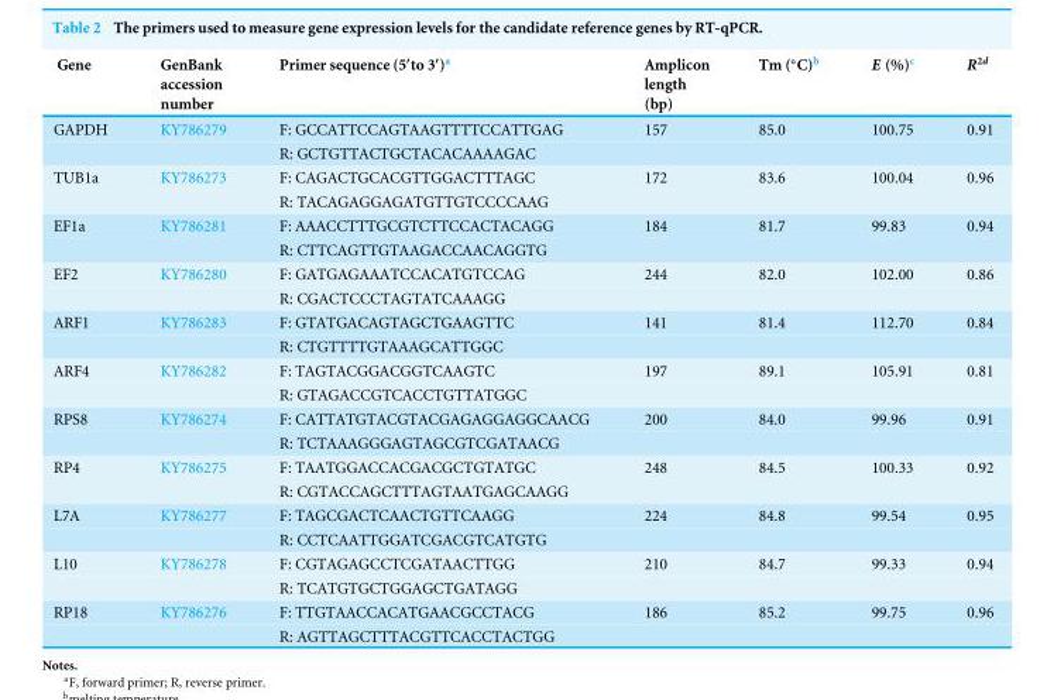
<table><thead><tr><td>Gene</td><td>GenBank accession number</td><td>Primer sequence (5′to 3′)<sup>a</sup></td><td>Amplicon length (bp)</td><td>Tm (◦C)b</td><td>E (%)<sup>c</sup></td><td>R<sup>2d</sup></td></tr></thead><tbody><tr><td rowspan="2">GAPDH</td><td>KY786279</td><td>F: GCCATTCCAGTAAGTTTTCCATTGAG</td><td>157</td><td>85.0</td><td>100.75</td><td>0.91</td></tr><tr><td></td><td>R: GCTGTTACTGCTACACAAAAGAC</td><td></td><td></td><td></td><td></td></tr><tr><td rowspan="2">TUB1a</td><td>KY786273</td><td>F: CAGACTGCACGTTGGACTTTAGC</td><td>172</td><td>83.6</td><td>100.04</td><td>0.96</td></tr><tr><td></td><td>R: TACAGAGGAGATGTTGTCCCCAAG</td><td></td><td></td><td></td><td></td></tr><tr><td rowspan="2">EF1a</td><td>KY786281</td><td>F: AAACCTTTGCGTCTTCCACTACAGG</td><td>184</td><td>81.7</td><td>99.83</td><td>0.94</td></tr><tr><td></td><td>R: CTTCAGTTGTAAGACCAACAGGTG</td><td></td><td></td><td></td><td></td></tr><tr><td rowspan="2">EF2</td><td>KY786280</td><td>F: GATGAGAAATCCACATGTCCAG</td><td>244</td><td>82.0</td><td>102.00</td><td>0.86</td></tr><tr><td></td><td>R: CGACTCCCTAGTATCAAAGG</td><td></td><td></td><td></td><td></td></tr><tr><td rowspan="2">ARF1</td><td>KY786283</td><td>F: GTATGACAGTAGCTGAAGTTC</td><td>141</td><td>81.4</td><td>112.70</td><td>0.84</td></tr><tr><td></td><td>R: CTGTTTTGTAAAGCATTGGC</td><td></td><td></td><td></td><td></td></tr><tr><td rowspan="2">ARF4</td><td>KY786282</td><td>F: TAGTACGGACGGTCAAGTC</td><td>197</td><td>89.1</td><td>105.91</td><td>0.81</td></tr><tr><td></td><td>R: GTAGACCGTCACCTGTTATGGC</td><td></td><td></td><td></td><td></td></tr><tr><td rowspan="2">RPS8</td><td>KY786274</td><td>F: CATTATGTACGTACGAGAGGAGGCAACG</td><td>200</td><td>84.0</td><td>99.96</td><td>0.91</td></tr><tr><td></td><td>R: TCTAAAGGGAGTAGCGTCGATAACG</td><td></td><td></td><td></td><td></td></tr><tr><td rowspan="2">RP4</td><td>KY786275</td><td>F: TAATGGACCACGACGCTGTATGC</td><td>248</td><td>84.5</td><td>100.33</td><td>0.92</td></tr><tr><td></td><td>R: CGTACCAGCTTTAGTAATGAGCAAGG</td><td></td><td></td><td></td><td></td></tr><tr><td rowspan="2">L7A</td><td>KY786277</td><td>F: TAGCGACTCAACTGTTCAAGG</td><td>224</td><td>84.8</td><td>99.54</td><td>0.95</td></tr><tr><td></td><td>R: CCTCAATTGGATCGACGTCATGTG</td><td></td><td></td><td></td><td></td></tr><tr><td rowspan="2">L10</td><td>KY786278</td><td>F: CGTAGAGCCTCGATAACTTGG</td><td>210</td><td>84.7</td><td>99.33</td><td>0.94</td></tr><tr><td></td><td>R: TCATGTGCTGGAGCTGATAGG</td><td></td><td></td><td></td><td></td></tr><tr><td rowspan="2">RP18</td><td>KY786276</td><td>F: TTGTAACCACATGAACGCCTACG</td><td>186</td><td>85.2</td><td>99.75</td><td>0.96</td></tr><tr><td></td><td>R: AGTTAGCTTTACGTTCACCTACTGG</td><td></td><td></td><td></td><td></td></tr></tbody></table>